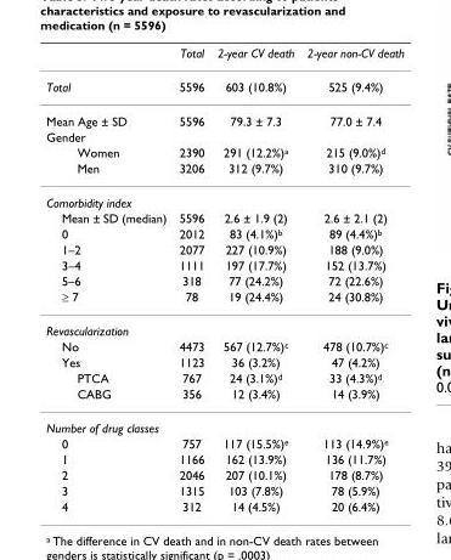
<table><thead><tr><td></td><td>Total</td><td>2-year CV death</td><td>2-year non-CV death</td></tr></thead><tbody><tr><td>Total</td><td>5596</td><td>603 (10.8%)</td><td>525 (9.4%)</td></tr><tr><td>Mean Age ± SD</td><td>5596</td><td>79.3 ± 7.3</td><td>77.0 ± 7.4</td></tr><tr><td colspan="4">Gender</td></tr><tr><td>Women</td><td>2390</td><td>291 (12.2%)<sup>a</sup></td><td>215 (9.0%)<sup>d</sup></td></tr><tr><td>Men</td><td>3206</td><td>312 (9.7%)</td><td>310 (9.7%)</td></tr><tr><td colspan="4">Comorbidity index</td></tr><tr><td>Mean ± SD (median)</td><td>5596</td><td>2.6 ± 1.9 (2)</td><td>2.6 ± 2.1 (2)</td></tr><tr><td>0</td><td>2012</td><td>83 (4.1%)<sup>b</sup></td><td>89 (4.4%)<sup>b</sup></td></tr><tr><td>1–2</td><td>2077</td><td>227 (10.9%)</td><td>188 (9.0%)</td></tr><tr><td>3–4</td><td>1111</td><td>197 (17.7%)</td><td>152 (13.7%)</td></tr><tr><td>5–6</td><td>318</td><td>77 (24.2%)</td><td>72 (22.6%)</td></tr><tr><td>≥ 7</td><td>78</td><td>19 (24.4%)</td><td>24 (30.8%)</td></tr><tr><td colspan="4">Revascularization</td></tr><tr><td>No</td><td>4473</td><td>567 (12.7%)<sup>c</sup></td><td>478 (10.7%)<sup>c</sup></td></tr><tr><td>Yes</td><td>1123</td><td>36 (3.2%)</td><td>47 (4.2%)</td></tr><tr><td>PTCA</td><td>767</td><td>24 (3.1%)<sup>d</sup></td><td>33 (4.3%)<sup>d</sup></td></tr><tr><td>CABG</td><td>356</td><td>12 (3.4%)</td><td>14 (3.9%)</td></tr><tr><td colspan="4">Number of drug classes</td></tr><tr><td>0</td><td>757</td><td>117 (15.5%)<sup>e</sup></td><td>113 (14.9%)<sup>e</sup></td></tr><tr><td>1</td><td>1166</td><td>162 (13.9%)</td><td>136 (11.7%)</td></tr><tr><td>2</td><td>2046</td><td>207 (10.1%)</td><td>178 (8.7%)</td></tr><tr><td>3</td><td>1315</td><td>103 (7.8%)</td><td>78 (5.9%)</td></tr><tr><td>4</td><td>312</td><td>14 (4.5%)</td><td>20 (6.4%)</td></tr></tbody></table>